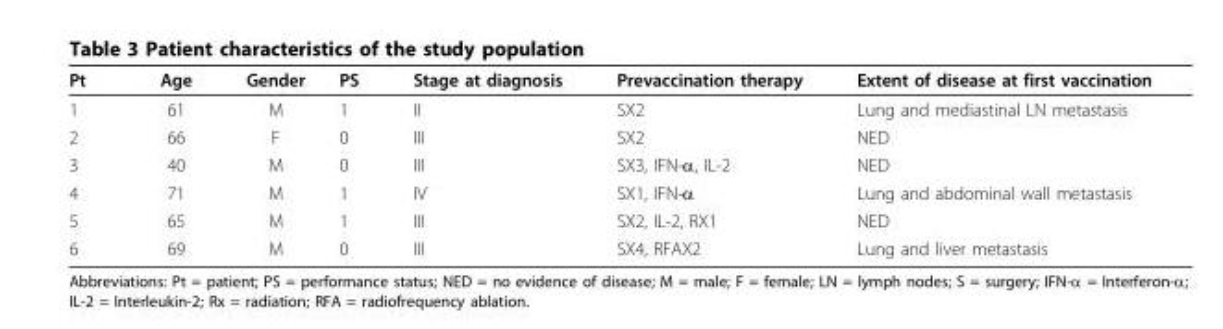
<table><thead><tr><td>Pt</td><td>Age</td><td>Gender</td><td>PS</td><td>Stage at diagnosis</td><td>Prevaccination therapy</td><td>Extent of disease at first vaccination</td></tr></thead><tbody><tr><td>1</td><td>61</td><td>M</td><td>1</td><td>II</td><td>SX2</td><td>Lung and mediastinal LN metastasis</td></tr><tr><td>2</td><td>66</td><td>F</td><td>0</td><td>III</td><td>SX2</td><td>NED</td></tr><tr><td>3</td><td>40</td><td>M</td><td>0</td><td>III</td><td>SX3, IFN-α, IL-2</td><td>NED</td></tr><tr><td>4</td><td>71</td><td>M</td><td>1</td><td>IV</td><td>SX1, IFN-α</td><td>Lung and abdominal wall metastasis</td></tr><tr><td>5</td><td>65</td><td>M</td><td>1</td><td>III</td><td>SX2, IL-2, RX1</td><td>NED</td></tr><tr><td>6</td><td>69</td><td>M</td><td>0</td><td>III</td><td>SX4, RFAX2</td><td>Lung and liver metastasis</td></tr></tbody></table>